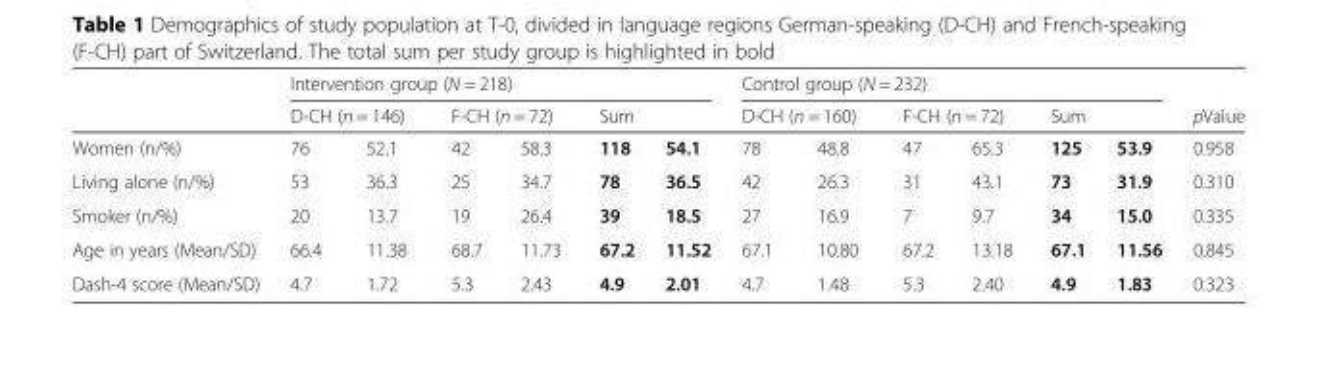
<table><thead><tr><td rowspan="3">Women (n/%)</td><td colspan="6">Intervention group (N = 218)</td><td colspan="6">Control group (N = 232)</td><td rowspan="3">pValue 0.958</td></tr><tr><td colspan="2">D-CH (n = 146)</td><td colspan="2">F-CH (n = 72)</td><td colspan="2">Sum</td><td colspan="2">D-CH (n = 160)</td><td colspan="2">F-CH (n = 72)</td><td colspan="2">Sum</td></tr><tr><td>76</td><td>52.1</td><td>42</td><td>58.3</td><td>118</td><td>54.1</td><td>78</td><td>48.8</td><td>47</td><td>65.3</td><td>125</td><td>53.9</td></tr></thead><tbody><tr><td>Living alone (n/%)</td><td>53</td><td>36.3</td><td>25</td><td>34.7</td><td>78</td><td>36.5</td><td>42</td><td>26.3</td><td>31</td><td>43.1</td><td>73</td><td>31.9</td><td>0.310</td></tr><tr><td>Smoker (n/%)</td><td>20</td><td>13.7</td><td>19</td><td>26.4</td><td>39</td><td>18.5</td><td>27</td><td>16.9</td><td>7</td><td>9.7</td><td>34</td><td>15.0</td><td>0.335</td></tr><tr><td>Age in years (Mean/SD)</td><td>66.4</td><td>11.38</td><td>68.7</td><td>11.73</td><td>67.2</td><td>11.52</td><td>67.1</td><td>10.80</td><td>67.2</td><td>13.18</td><td>67.1</td><td>11.56</td><td>0.845</td></tr><tr><td>Dash-4 score (Mean/SD)</td><td>4.7</td><td>1.72</td><td>5.3</td><td>2.43</td><td>4.9</td><td>2.01</td><td>4.7</td><td>1.48</td><td>5.3</td><td>2.40</td><td>4.9</td><td>1.83</td><td>0.323</td></tr></tbody></table>